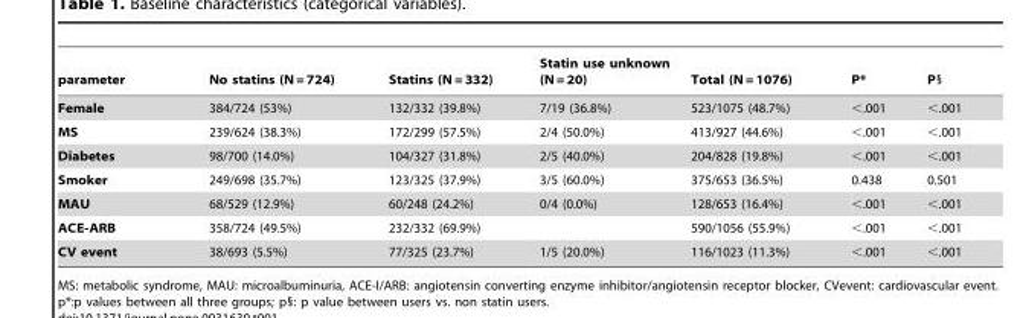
<table><thead><tr><td>parameter</td><td>No statins (N = 724)</td><td>Statins (N = 332)</td><td>Statin use unknown (N = 20)</td><td>Total (N = 1076)</td><td>P*</td><td>P§</td></tr></thead><tbody><tr><td>Female</td><td>384/724 (53%)</td><td>132/332 (39.8%)</td><td>7/19 (36.8%)</td><td>523/1075 (48.7%)</td><td>&lt;.001</td><td>&lt;.001</td></tr><tr><td>MS</td><td>239/624 (38.3%)</td><td>172/299 (57.5%)</td><td>2/4 (50.0%)</td><td>413/927 (44.6%)</td><td>&lt;.001</td><td>&lt;.001</td></tr><tr><td>Diabetes</td><td>98/700 (14.0%)</td><td>104/327 (31.8%)</td><td>2/5 (40.0%)</td><td>204/828 (19.8%)</td><td>&lt;.001</td><td>&lt;.001</td></tr><tr><td>Smoker</td><td>249/698 (35.7%)</td><td>123/325 (37.9%)</td><td>3/5 (60.0%)</td><td>375/653 (36.5%)</td><td>0.438</td><td>0.501</td></tr><tr><td>MAU</td><td>68/529 (12.9%)</td><td>60/248 (24.2%)</td><td>0/4 (0.0%)</td><td>128/653 (16.4%)</td><td>&lt;.001</td><td>&lt;.001</td></tr><tr><td>ACE-ARB</td><td>358/724 (49.5%)</td><td>232/332 (69.9%)</td><td></td><td>590/1056 (55.9%)</td><td>&lt;.001</td><td>&lt;.001</td></tr><tr><td>CV event</td><td>38/693 (5.5%)</td><td>77/325 (23.7%)</td><td>1/5 (20.0%)</td><td>116/1023 (11.3%)</td><td>&lt;.001</td><td>&lt;.001</td></tr></tbody></table>